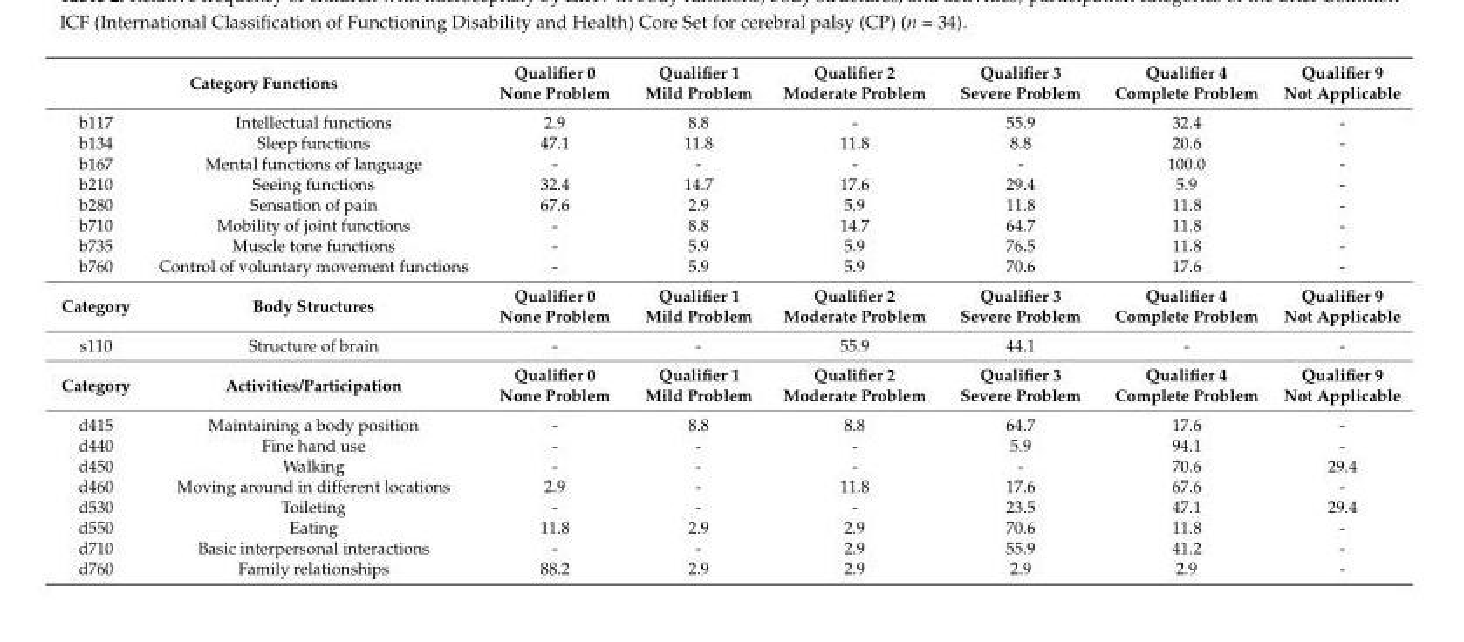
<table><tbody><tr><td colspan="2">Category Functions</td><td>Qualifier 0 None Problem</td><td>Qualifier 1 Mild Problem</td><td>Qualifier 2 Moderate Problem</td><td>Qualifier 3 Severe Problem</td><td>Qualifier 4 Complete Problem</td><td>Qualifier 9 Not Applicable</td></tr><tr><td>b117</td><td>Intellectual functions</td><td>2.9</td><td>8.8</td><td>-</td><td>55.9</td><td>32.4</td><td>-</td></tr><tr><td>b134</td><td>Sleep functions</td><td>47.1</td><td>11.8</td><td>11.8</td><td>8.8</td><td>20.6</td><td>-</td></tr><tr><td>b167</td><td>Mental functions of language</td><td>-</td><td>-</td><td>-</td><td>-</td><td>100.0</td><td>-</td></tr><tr><td>b210</td><td>Seeing functions</td><td>32.4</td><td>14.7</td><td>17.6</td><td>29.4</td><td>5.9</td><td>-</td></tr><tr><td>b280</td><td>Sensation of pain</td><td>67.6</td><td>2.9</td><td>5.9</td><td>11.8</td><td>11.8</td><td>-</td></tr><tr><td>b710</td><td>Mobility of joint functions</td><td>-</td><td>8.8</td><td>14.7</td><td>64.7</td><td>11.8</td><td>-</td></tr><tr><td>b735</td><td>Muscle tone functions</td><td>-</td><td>5.9</td><td>5.9</td><td>76.5</td><td>11.8</td><td>-</td></tr><tr><td>b760</td><td>Control of voluntary movement functions</td><td>-</td><td>5.9</td><td>5.9</td><td>70.6</td><td>17.6</td><td>-</td></tr><tr><td>Category</td><td>Body Structures</td><td>Qualifier 0 None Problem</td><td>Qualifier 1 Mild Problem</td><td>Qualifier 2 Moderate Problem</td><td>Qualifier 3 Severe Problem</td><td>Qualifier 4 Complete Problem</td><td>Qualifier 9 Not Applicable</td></tr><tr><td>s110</td><td>Structure of brain</td><td>-</td><td>-</td><td>55.9</td><td>44.1</td><td>-</td><td>-</td></tr><tr><td>Category</td><td>Activities/Participation</td><td>Qualifier 0 None Problem</td><td>Qualifier 1 Mild Problem</td><td>Qualifier 2 Moderate Problem</td><td>Qualifier 3 Severe Problem</td><td>Qualifier 4 Complete Problem</td><td>Qualifier 9 Not Applicable</td></tr><tr><td>d415</td><td>Maintaining a body position</td><td>-</td><td>8.8</td><td>8.8</td><td>64.7</td><td>17.6</td><td>-</td></tr><tr><td>d440</td><td>Fine hand use</td><td>-</td><td>-</td><td>-</td><td>5.9</td><td>94.1</td><td>-</td></tr><tr><td>d450</td><td>Walking</td><td>-</td><td>-</td><td>-</td><td>-</td><td>70.6</td><td>29.4</td></tr><tr><td>d460</td><td>Moving around in different locations</td><td>2.9</td><td>-</td><td>11.8</td><td>17.6</td><td>67.6</td><td>-</td></tr><tr><td>d530</td><td>Toileting</td><td>-</td><td>-</td><td>-</td><td>23.5</td><td>47.1</td><td>29.4</td></tr><tr><td>d550</td><td>Eating</td><td>11.8</td><td>2.9</td><td>2.9</td><td>70.6</td><td>11.8</td><td>-</td></tr><tr><td>d710</td><td>Basic interpersonal interactions</td><td>-</td><td>-</td><td>2.9</td><td>55.9</td><td>41.2</td><td>-</td></tr><tr><td>d760</td><td>Family relationships</td><td>88.2</td><td>2.9</td><td>2.9</td><td>2.9</td><td>2.9</td><td>-</td></tr></tbody></table>